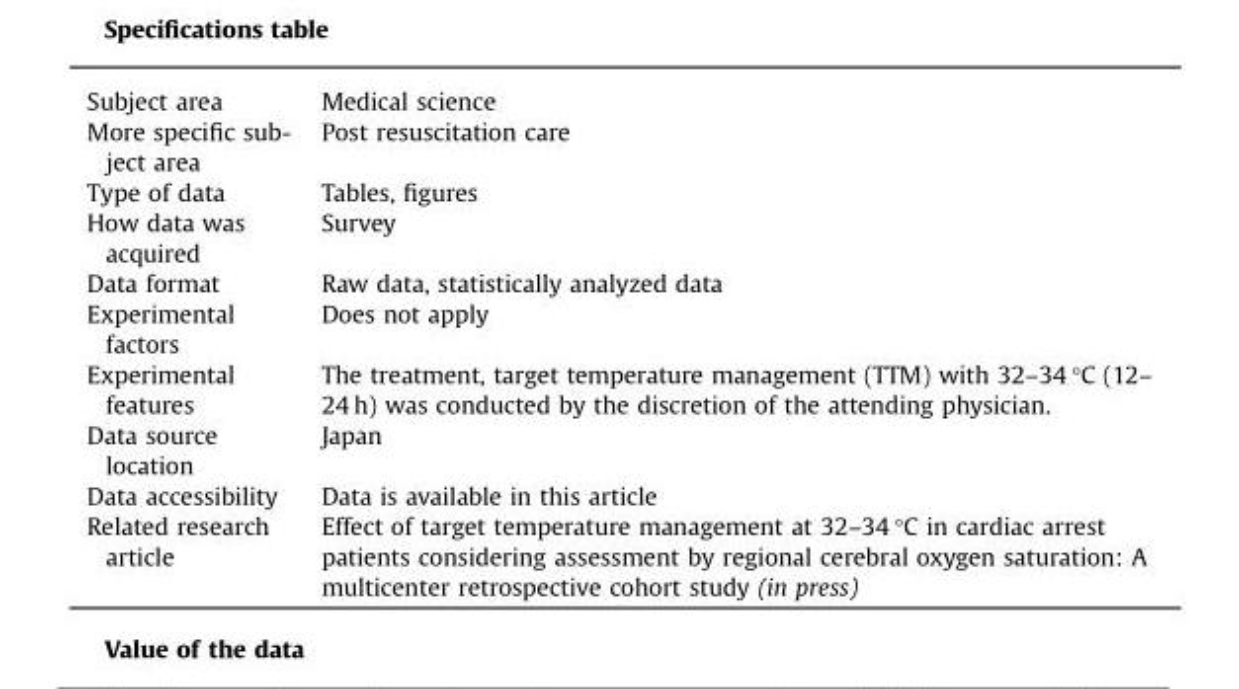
<table><tbody><tr><td>Subject area</td><td>Medical science</td></tr><tr><td>More specific sub- ject area</td><td>Post resuscitation care</td></tr><tr><td>Type of data</td><td>Tables, figures</td></tr><tr><td>How data was acquired</td><td>Survey</td></tr><tr><td>Data format</td><td>Raw data, statistically analyzed data</td></tr><tr><td>Experimental factors</td><td>Does not apply</td></tr><tr><td>Experimental features</td><td>The treatment, target temperature management (TTM) with 32–34 °C (12– 24 h) was conducted by the discretion of the attending physician.</td></tr><tr><td>Data source location</td><td>Japan</td></tr><tr><td>Data accessibility</td><td>Data is available in this article</td></tr><tr><td>Related research article</td><td>Effect of target temperature management at 32–34 °C in cardiac arrest patients considering assessment by regional cerebral oxygen saturation: A multicenter retrospective cohort study (in press)</td></tr></tbody></table>